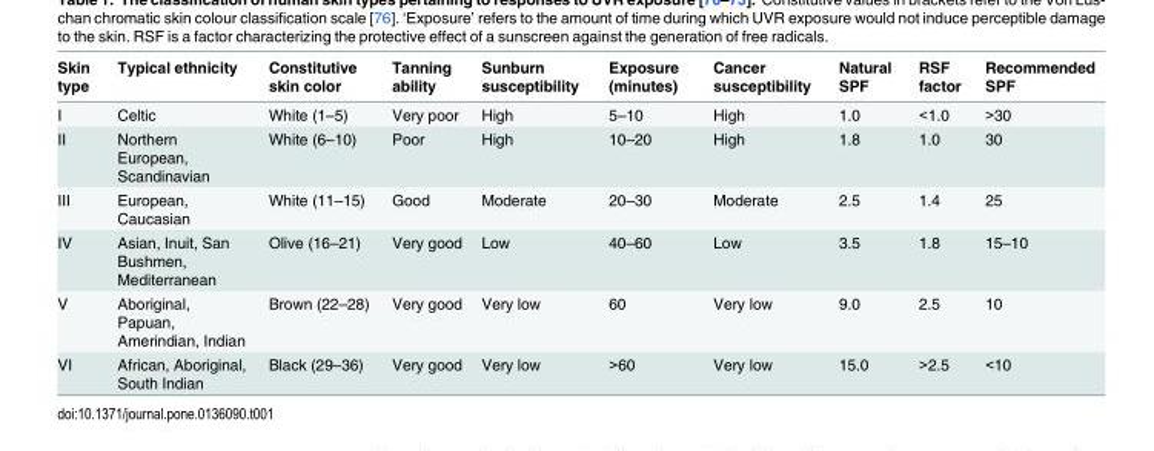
<table><thead><tr><td>Skin type</td><td>Typical ethnicity</td><td>Constitutive skin color</td><td>Tanning ability</td><td>Sunburn susceptibility</td><td>Exposure (minutes)</td><td>Cancer susceptibility</td><td>Natural SPF</td><td>RSF factor</td><td>Recommended SPF</td></tr></thead><tbody><tr><td>I</td><td>Celtic</td><td>White (1–5)</td><td>Very poor</td><td>High</td><td>5–10</td><td>High</td><td>1.0</td><td>&lt;1.0</td><td>&gt;30</td></tr><tr><td>II</td><td>Northern European, Scandinavian</td><td>White (6–10)</td><td>Poor</td><td>High</td><td>10–20</td><td>High</td><td>1.8</td><td>1.0</td><td>30</td></tr><tr><td>III</td><td>European, Caucasian</td><td>White (11–15)</td><td>Good</td><td>Moderate</td><td>20–30</td><td>Moderate</td><td>2.5</td><td>1.4</td><td>25</td></tr><tr><td>IV</td><td>Asian, Inuit, San Bushmen, Mediterranean</td><td>Olive (16–21)</td><td>Very good</td><td>Low</td><td>40–60</td><td>Low</td><td>3.5</td><td>1.8</td><td>15–10</td></tr><tr><td>V</td><td>Aboriginal, Papuan, Amerindian, Indian</td><td>Brown (22–28)</td><td>Very good</td><td>Very low</td><td>60</td><td>Very low</td><td>9.0</td><td>2.5</td><td>10</td></tr><tr><td>VI</td><td>African, Aboriginal, South Indian</td><td>Black (29–36)</td><td>Very good</td><td>Very low</td><td>&gt;60</td><td>Very low</td><td>15.0</td><td>&gt;2.5</td><td>&lt;10</td></tr></tbody></table>